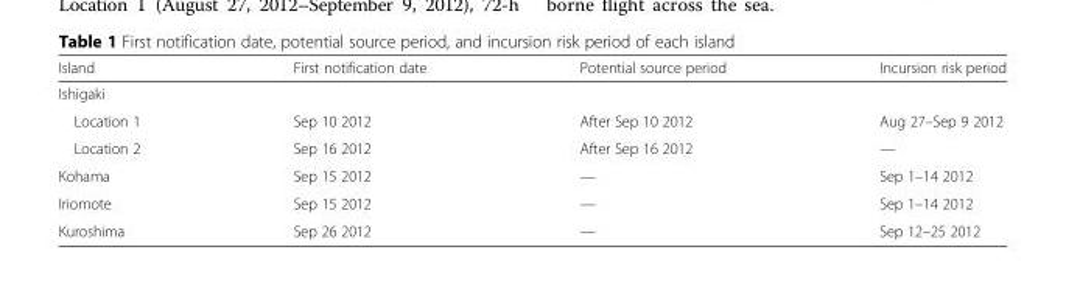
<table><thead><tr><td>Island</td><td>First notification date</td><td>Potential source period</td><td>Incursion risk period</td></tr></thead><tbody><tr><td colspan="4">Ishigaki</td></tr><tr><td>Location 1</td><td>Sep 10 2012</td><td>After Sep 10 2012</td><td>Aug 27–Sep 9 2012</td></tr><tr><td>Location 2</td><td>Sep 16 2012</td><td>After Sep 16 2012</td><td>—</td></tr><tr><td>Kohama</td><td>Sep 15 2012</td><td>—</td><td>Sep 1–14 2012</td></tr><tr><td>Iriomote</td><td>Sep 15 2012</td><td>—</td><td>Sep 1–14 2012</td></tr><tr><td>Kuroshima</td><td>Sep 26 2012</td><td>—</td><td>Sep 12–25 2012</td></tr></tbody></table>